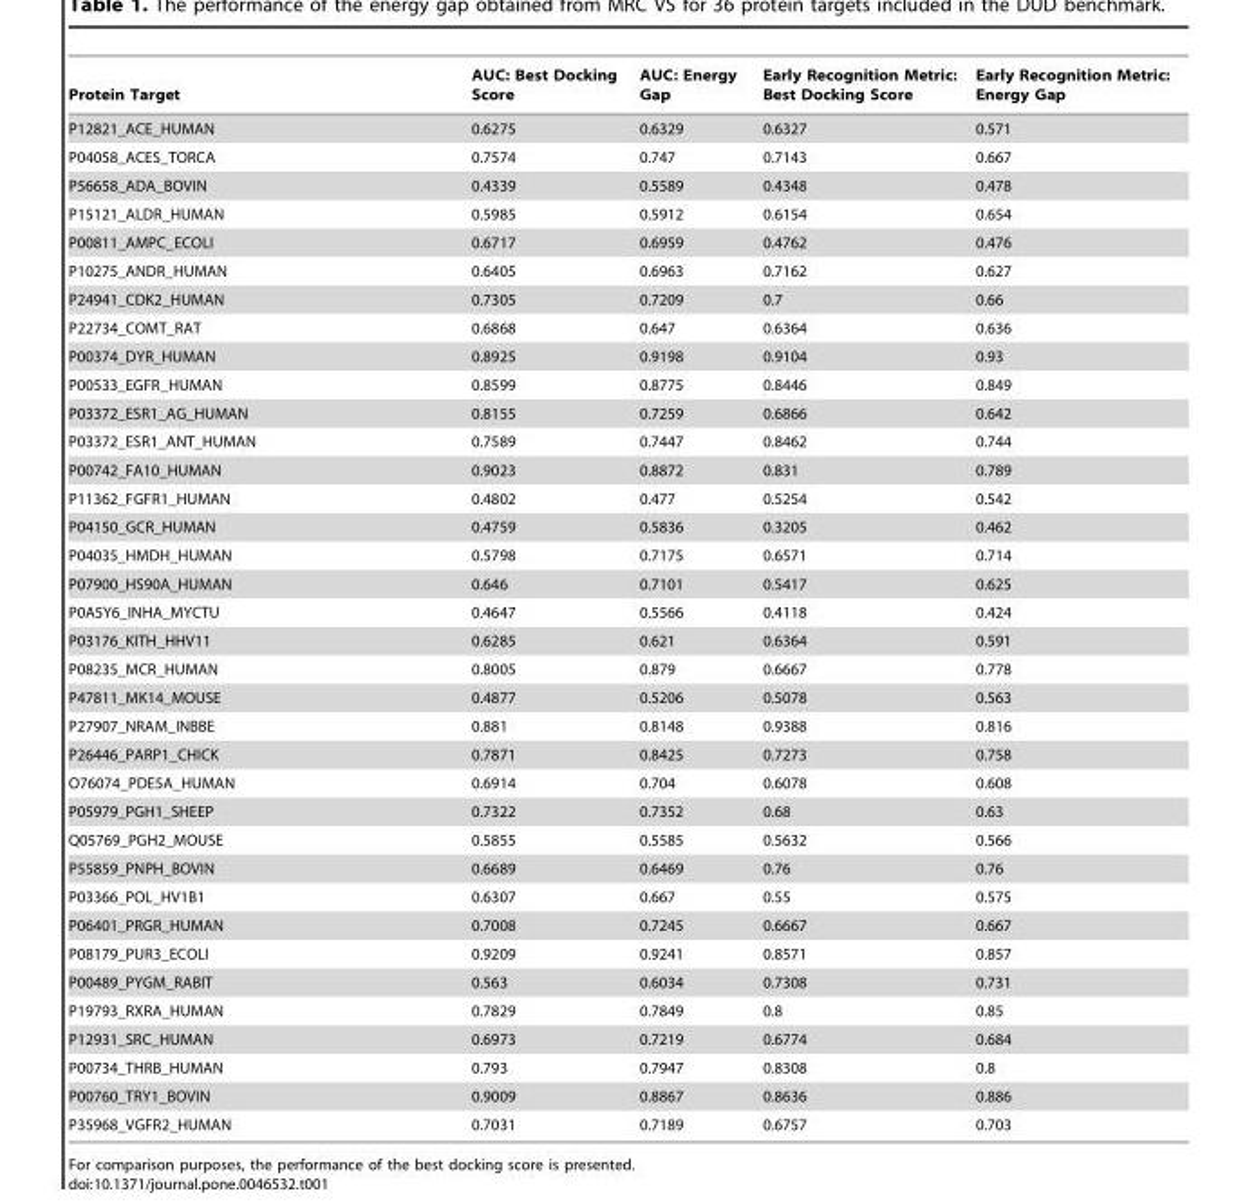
<table><thead><tr><td>Protein Target</td><td>AUC: Best Docking Score</td><td>AUC: Energy Gap</td><td>Early Recognition Metric: Best Docking Score</td><td>Early Recognition Metric: Energy Gap</td></tr></thead><tbody><tr><td>P12821_ACE_HUMAN</td><td>0.6275</td><td>0.6329</td><td>0.6327</td><td>0.571</td></tr><tr><td>P04058_ACES_TORCA</td><td>0.7574</td><td>0.747</td><td>0.7143</td><td>0.667</td></tr><tr><td>P56658_ADA_BOVIN</td><td>0.4339</td><td>0.5589</td><td>0.4348</td><td>0.478</td></tr><tr><td>P15121_ALDR_HUMAN</td><td>0.5985</td><td>0.5912</td><td>0.6154</td><td>0.654</td></tr><tr><td>P00811_AMPC_ECOLI</td><td>0.6717</td><td>0.6959</td><td>0.4762</td><td>0.476</td></tr><tr><td>P10275_ANDR_HUMAN</td><td>0.6405</td><td>0.6963</td><td>0.7162</td><td>0.627</td></tr><tr><td>P24941_CDK2_HUMAN</td><td>0.7305</td><td>0.7209</td><td>0.7</td><td>0.66</td></tr><tr><td>P22734_COMT_RAT</td><td>0.6868</td><td>0.647</td><td>0.6364</td><td>0.636</td></tr><tr><td>P00374_DYR_HUMAN</td><td>0.8925</td><td>0.9198</td><td>0.9104</td><td>0.93</td></tr><tr><td>P00533_EGFR_HUMAN</td><td>0.8599</td><td>0.8775</td><td>0.8446</td><td>0.849</td></tr><tr><td>P03372_ESR1_AG_HUMAN</td><td>0.8155</td><td>0.7259</td><td>0.6866</td><td>0.642</td></tr><tr><td>P03372_ESR1_ANT_HUMAN</td><td>0.7589</td><td>0.7447</td><td>0.8462</td><td>0.744</td></tr><tr><td>P00742_FA10_HUMAN</td><td>0.9023</td><td>0.8872</td><td>0.831</td><td>0.789</td></tr><tr><td>P11362_FGFR1_HUMAN</td><td>0.4802</td><td>0.477</td><td>0.5254</td><td>0.542</td></tr><tr><td>P04150_GCR_HUMAN</td><td>0.4759</td><td>0.5836</td><td>0.3205</td><td>0.462</td></tr><tr><td>P04035_HMDH_HUMAN</td><td>0.5798</td><td>0.7175</td><td>0.6571</td><td>0.714</td></tr><tr><td>P07900_HS90A_HUMAN</td><td>0.646</td><td>0.7101</td><td>0.5417</td><td>0.625</td></tr><tr><td>P0A5Y6_INHA_MYCTU</td><td>0.4647</td><td>0.5566</td><td>0.4118</td><td>0.424</td></tr><tr><td>P03176_KITH_HHV11</td><td>0.6285</td><td>0.621</td><td>0.6364</td><td>0.591</td></tr><tr><td>P08235_MCR_HUMAN</td><td>0.8005</td><td>0.879</td><td>0.6667</td><td>0.778</td></tr><tr><td>P47811_MK14_MOUSE</td><td>0.4877</td><td>0.5206</td><td>0.5078</td><td>0.563</td></tr><tr><td>P27907_NRAM_INBBE</td><td>0.881</td><td>0.8148</td><td>0.9388</td><td>0.816</td></tr><tr><td>P26446_PARP1_CHICK</td><td>0.7871</td><td>0.8425</td><td>0.7273</td><td>0.758</td></tr><tr><td>O76074_PDE5A_HUMAN</td><td>0.6914</td><td>0.704</td><td>0.6078</td><td>0.608</td></tr><tr><td>P05979_PGH1_SHEEP</td><td>0.7322</td><td>0.7352</td><td>0.68</td><td>0.63</td></tr><tr><td>Q05769_PGH2_MOUSE</td><td>0.5855</td><td>0.5585</td><td>0.5632</td><td>0.566</td></tr><tr><td>P55859_PNPH_BOVIN</td><td>0.6689</td><td>0.6469</td><td>0.76</td><td>0.76</td></tr><tr><td>P03366_POL_HV1B1</td><td>0.6307</td><td>0.667</td><td>0.55</td><td>0.575</td></tr><tr><td>P06401_PRGR_HUMAN</td><td>0.7008</td><td>0.7245</td><td>0.6667</td><td>0.667</td></tr><tr><td>P08179_PUR3_ECOLI</td><td>0.9209</td><td>0.9241</td><td>0.8571</td><td>0.857</td></tr><tr><td>P00489_PYGM_RABIT</td><td>0.563</td><td>0.6034</td><td>0.7308</td><td>0.731</td></tr><tr><td>P19793_RXRA_HUMAN</td><td>0.7829</td><td>0.7849</td><td>0.8</td><td>0.85</td></tr><tr><td>P12931_SRC_HUMAN</td><td>0.6973</td><td>0.7219</td><td>0.6774</td><td>0.684</td></tr><tr><td>P00734_THRB_HUMAN</td><td>0.793</td><td>0.7947</td><td>0.8308</td><td>0.8</td></tr><tr><td>P00760_TRY1_BOVIN</td><td>0.9009</td><td>0.8867</td><td>0.8636</td><td>0.886</td></tr><tr><td>P35968_VGFR2_HUMAN</td><td>0.7031</td><td>0.7189</td><td>0.6757</td><td>0.703</td></tr></tbody></table>